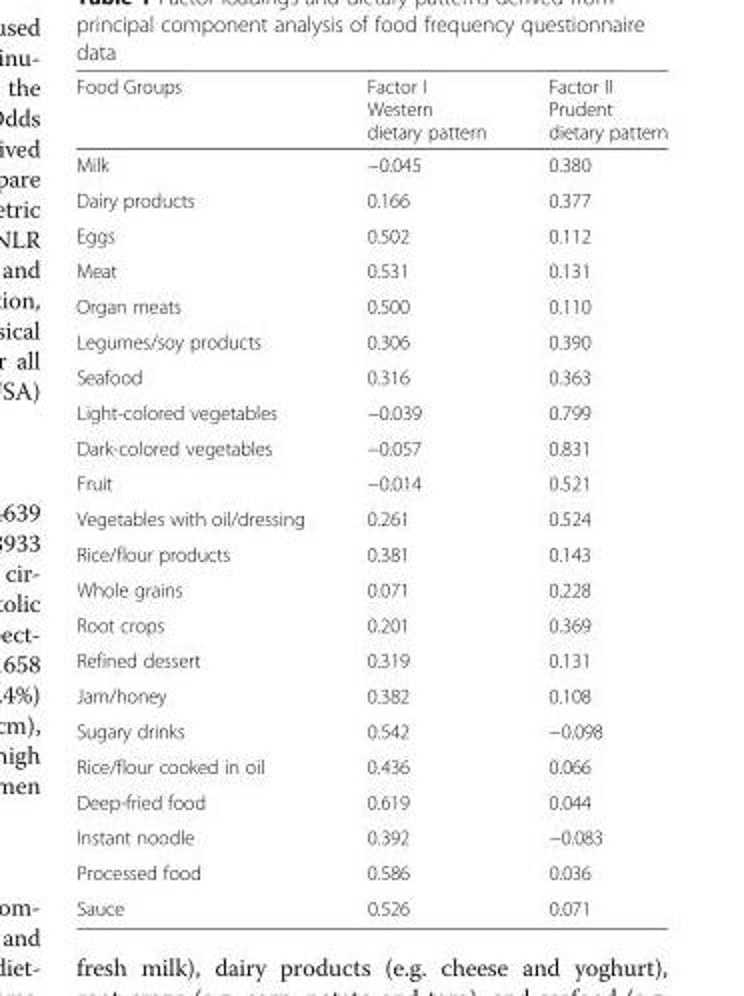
<table><thead><tr><td>Food Groups</td><td>Factor I Western dietary pattern</td><td>Factor II Prudent dietary pattern</td></tr></thead><tbody><tr><td>Milk</td><td>−0.045</td><td>0.380</td></tr><tr><td>Dairy products</td><td>0.166</td><td>0.377</td></tr><tr><td>Eggs</td><td>0.502</td><td>0.112</td></tr><tr><td>Meat</td><td>0.531</td><td>0.131</td></tr><tr><td>Organ meats</td><td>0.500</td><td>0.110</td></tr><tr><td>Legumes/soy products</td><td>0.306</td><td>0.390</td></tr><tr><td>Seafood</td><td>0.316</td><td>0.363</td></tr><tr><td>Light-colored vegetables</td><td>−0.039</td><td>0.799</td></tr><tr><td>Dark-colored vegetables</td><td>−0.057</td><td>0.831</td></tr><tr><td>Fruit</td><td>−0.014</td><td>0.521</td></tr><tr><td>Vegetables with oil/dressing</td><td>0.261</td><td>0.524</td></tr><tr><td>Rice/flour products</td><td>0.381</td><td>0.143</td></tr><tr><td>Whole grains</td><td>0.071</td><td>0.228</td></tr><tr><td>Root crops</td><td>0.201</td><td>0.369</td></tr><tr><td>Refined dessert</td><td>0.319</td><td>0.131</td></tr><tr><td>Jam/honey</td><td>0.382</td><td>0.108</td></tr><tr><td>Sugary drinks</td><td>0.542</td><td>−0.098</td></tr><tr><td>Rice/flour cooked in oil</td><td>0.436</td><td>0.066</td></tr><tr><td>Deep-fried food</td><td>0.619</td><td>0.044</td></tr><tr><td>Instant noodle</td><td>0.392</td><td>−0.083</td></tr><tr><td>Processed food</td><td>0.586</td><td>0.036</td></tr><tr><td>Sauce</td><td>0.526</td><td>0.071</td></tr></tbody></table>